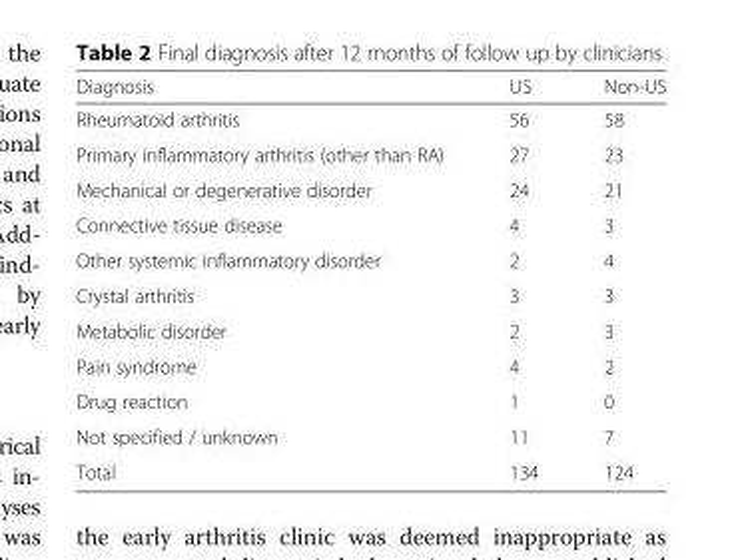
<table><thead><tr><td>Diagnosis</td><td>US</td><td>Non-US</td></tr></thead><tbody><tr><td>Rheumatoid arthritis</td><td>56</td><td>58</td></tr><tr><td>Primary inflammatory arthritis (other than RA)</td><td>27</td><td>23</td></tr><tr><td>Mechanical or degenerative disorder</td><td>24</td><td>21</td></tr><tr><td>Connective tissue disease</td><td>4</td><td>3</td></tr><tr><td>Other systemic inflammatory disorder</td><td>2</td><td>4</td></tr><tr><td>Crystal arthritis</td><td>3</td><td>3</td></tr><tr><td>Metabolic disorder</td><td>2</td><td>3</td></tr><tr><td>Pain syndrome</td><td>4</td><td>2</td></tr><tr><td>Drug reaction</td><td>1</td><td>0</td></tr><tr><td>Not specified / unknown</td><td>11</td><td>7</td></tr><tr><td>Total</td><td>134</td><td>124</td></tr></tbody></table>